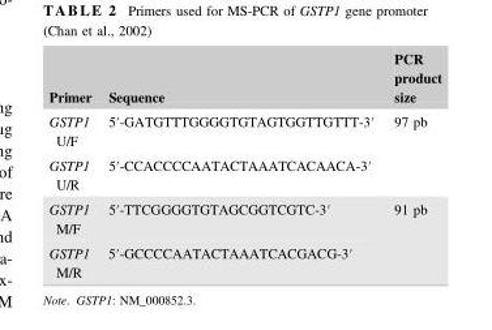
<table><thead><tr><td>Primer</td><td>Sequence</td><td>PCR product size</td></tr></thead><tbody><tr><td>GSTP1 U/F</td><td>5′‐GATGTTTGGGGTGTAGTGGTTGTTT‐3′</td><td rowspan="2">97 pb</td></tr><tr><td>GSTP1 U/R</td><td>5′‐CCACCCCAATACTAAATCACAACA‐3′</td></tr><tr><td>GSTP1 M/F</td><td>5′‐TTCGGGGTGTAGCGGTCGTC‐3′</td><td rowspan="2">91 pb</td></tr><tr><td>GSTP1 M/R</td><td>5′‐GCCCCAATACTAAATCACGACG‐3′</td></tr></tbody></table>